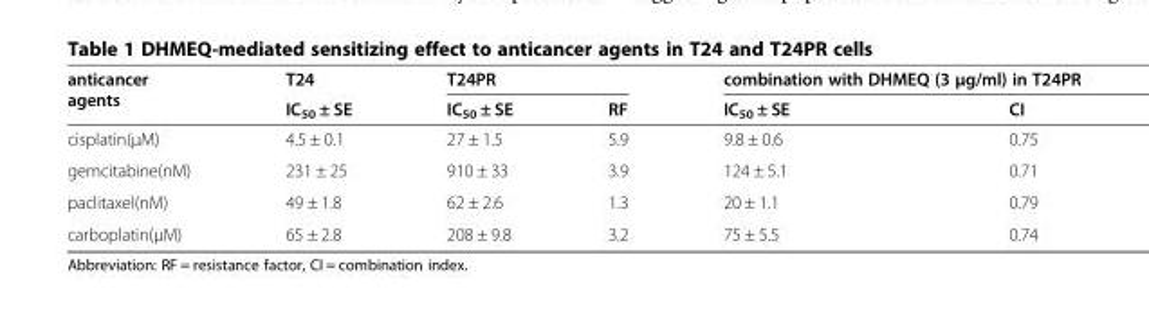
<table><thead><tr><td rowspan="2">anticancer agents</td><td rowspan="2">T24 IC<sub>50</sub> ± SE</td><td colspan="2">T24PR</td><td colspan="2">combination with DHMEQ (3 μg/ml) in T24PR</td></tr><tr><td>IC<sub>50</sub> ± SE</td><td>RF</td><td>IC<sub>50</sub> ± SE</td><td>CI</td></tr></thead><tbody><tr><td>cisplatin(μM)</td><td>4.5 ± 0.1</td><td>27 ± 1.5</td><td>5.9</td><td>9.8 ± 0.6</td><td>0.75</td></tr><tr><td>gemcitabine(nM)</td><td>231 ± 25</td><td>910 ± 33</td><td>3.9</td><td>124 ± 5.1</td><td>0.71</td></tr><tr><td>paclitaxel(nM)</td><td>49 ± 1.8</td><td>62 ± 2.6</td><td>1.3</td><td>20 ± 1.1</td><td>0.79</td></tr><tr><td>carboplatin(μM)</td><td>65 ± 2.8</td><td>208 ± 9.8</td><td>3.2</td><td>75 ± 5.5</td><td>0.74</td></tr></tbody></table>